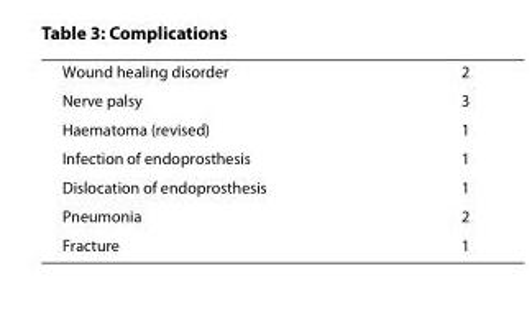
<table><tbody><tr><td>Wound healing disorder</td><td>2</td></tr><tr><td>Nerve palsy</td><td>3</td></tr><tr><td>Haematoma (revised)</td><td>1</td></tr><tr><td>Infection of endoprosthesis</td><td>1</td></tr><tr><td>Dislocation of endoprosthesis</td><td>1</td></tr><tr><td>Pneumonia</td><td>2</td></tr><tr><td>Fracture</td><td>1</td></tr></tbody></table>